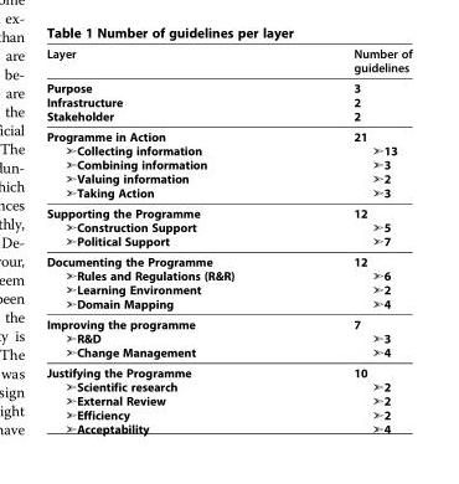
<table><thead><tr><td>Layer</td><td>Number of guidelines</td></tr></thead><tbody><tr><td>Purpose Infrastructure Stakeholder</td><td>3 2 2</td></tr><tr><td>Programme in Action ➣Collecting information ➣Combining information ➣Valuing information ➣Taking Action</td><td>21 ➣13 ➣3 ➣2 ➣3</td></tr><tr><td>Supporting the Programme ➣Construction Support ➣Political Support</td><td>12 ➣5 ➣7</td></tr><tr><td>Documenting the Programme ➣Rules and Regulations (R&amp;R) ➣Learning Environment ➣Domain Mapping</td><td>12 ➣6 ➣2 ➣4</td></tr><tr><td>Improving the programme ➣R&amp;D ➣Change Management</td><td>7 ➣3 ➣4</td></tr><tr><td>Justifying the Programme ➣Scientific research ➣External Review ➣Efficiency ➣Acceptability</td><td>10 ➣2 ➣2 ➣2 ➣4</td></tr></tbody></table>